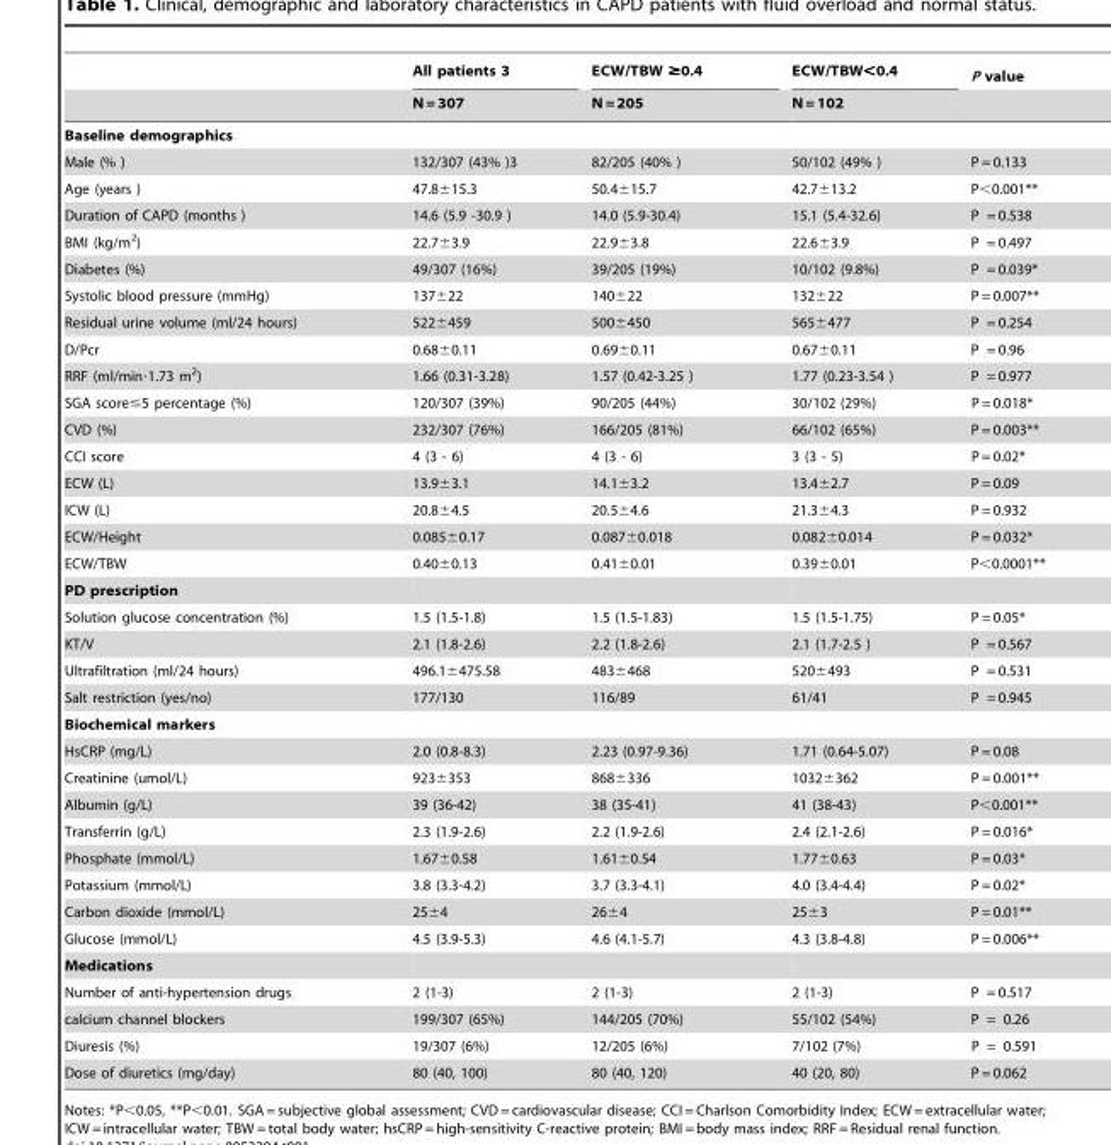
<table><thead><tr><td rowspan="2"></td><td rowspan="2">All patients 3 N = 307</td><td rowspan="2">ECW/TBW ≥0.4 N = 205</td><td rowspan="2">ECW/TBW&lt;0.4 N = 102</td><td rowspan="2">P value</td></tr><tr></tr></thead><tbody><tr><td colspan="5">Baseline demographics</td></tr><tr><td>Male (% )</td><td>132/307 (43% )3</td><td>82/205 (40% )</td><td>50/102 (49% )</td><td>P = 0.133</td></tr><tr><td>Age (years )</td><td>47.8±15.3</td><td>50.4±15.7</td><td>42.7±13.2</td><td>P&lt;0.001**</td></tr><tr><td>Duration of CAPD (months )</td><td>14.6 (5.9 -30.9 )</td><td>14.0 (5.9-30.4)</td><td>15.1 (5.4-32.6)</td><td>P = 0.538</td></tr><tr><td>BMI (kg/m<sup>2</sup>)</td><td>22.7±3.9</td><td>22.9±3.8</td><td>22.6±3.9</td><td>P = 0.497</td></tr><tr><td>Diabetes (%)</td><td>49/307 (16%)</td><td>39/205 (19%)</td><td>10/102 (9.8%)</td><td>P = 0.039*</td></tr><tr><td>Systolic blood pressure (mmHg)</td><td>137±22</td><td>140±22</td><td>132±22</td><td>P = 0.007**</td></tr><tr><td>Residual urine volume (ml/24 hours)</td><td>522±459</td><td>500±450</td><td>565±477</td><td>P = 0.254</td></tr><tr><td>D/Pcr</td><td>0.68±0.11</td><td>0.69±0.11</td><td>0.67±0.11</td><td>P = 0.96</td></tr><tr><td>RRF (ml/min·1.73 m<sup>2</sup>)</td><td>1.66 (0.31-3.28)</td><td>1.57 (0.42-3.25 )</td><td>1.77 (0.23-3.54 )</td><td>P = 0.977</td></tr><tr><td>SGA score≤5 percentage (%)</td><td>120/307 (39%)</td><td>90/205 (44%)</td><td>30/102 (29%)</td><td>P = 0.018*</td></tr><tr><td>CVD (%)</td><td>232/307 (76%)</td><td>166/205 (81%)</td><td>66/102 (65%)</td><td>P = 0.003**</td></tr><tr><td>CCI score</td><td>4 (3 - 6)</td><td>4 (3 - 6)</td><td>3 (3 - 5)</td><td>P = 0.02*</td></tr><tr><td>ECW (L)</td><td>13.9±3.1</td><td>14.1±3.2</td><td>13.4±2.7</td><td>P = 0.09</td></tr><tr><td>ICW (L)</td><td>20.8±4.5</td><td>20.5±4.6</td><td>21.3±4.3</td><td>P = 0.932</td></tr><tr><td>ECW/Height</td><td>0.085±0.17</td><td>0.087±0.018</td><td>0.082±0.014</td><td>P = 0.032*</td></tr><tr><td>ECW/TBW</td><td>0.40±0.13</td><td>0.41±0.01</td><td>0.39±0.01</td><td>P&lt;0.0001**</td></tr><tr><td colspan="5">PD prescription</td></tr><tr><td>Solution glucose concentration (%)</td><td>1.5 (1.5-1.8)</td><td>1.5 (1.5-1.83)</td><td>1.5 (1.5-1.75)</td><td>P = 0.05*</td></tr><tr><td>KT/V</td><td>2.1 (1.8-2.6)</td><td>2.2 (1.8-2.6)</td><td>2.1 (1.7-2.5 )</td><td>P = 0.567</td></tr><tr><td>Ultrafiltration (ml/24 hours)</td><td>496.1±475.58</td><td>483±468</td><td>520±493</td><td>P = 0.531</td></tr><tr><td>Salt restriction (yes/no)</td><td>177/130</td><td>116/89</td><td>61/41</td><td>P = 0.945</td></tr><tr><td colspan="5">Biochemical markers</td></tr><tr><td>HsCRP (mg/L)</td><td>2.0 (0.8-8.3)</td><td>2.23 (0.97-9.36)</td><td>1.71 (0.64-5.07)</td><td>P = 0.08</td></tr><tr><td>Creatinine (umol/L)</td><td>923±353</td><td>868±336</td><td>1032±362</td><td>P = 0.001**</td></tr><tr><td>Albumin (g/L)</td><td>39 (36-42)</td><td>38 (35-41)</td><td>41 (38-43)</td><td>P&lt;0.001**</td></tr><tr><td>Transferrin (g/L)</td><td>2.3 (1.9-2.6)</td><td>2.2 (1.9-2.6)</td><td>2.4 (2.1-2.6)</td><td>P = 0.016*</td></tr><tr><td>Phosphate (mmol/L)</td><td>1.67±0.58</td><td>1.61±0.54</td><td>1.77±0.63</td><td>P = 0.03*</td></tr><tr><td>Potassium (mmol/L)</td><td>3.8 (3.3-4.2)</td><td>3.7 (3.3-4.1)</td><td>4.0 (3.4-4.4)</td><td>P = 0.02*</td></tr><tr><td>Carbon dioxide (mmol/L)</td><td>25±4</td><td>26±4</td><td>25±3</td><td>P = 0.01**</td></tr><tr><td>Glucose (mmol/L)</td><td>4.5 (3.9-5.3)</td><td>4.6 (4.1-5.7)</td><td>4.3 (3.8-4.8)</td><td>P = 0.006**</td></tr><tr><td colspan="5">Medications</td></tr><tr><td>Number of anti-hypertension drugs</td><td>2 (1-3)</td><td>2 (1-3)</td><td>2 (1-3)</td><td>P = 0.517</td></tr><tr><td>calcium channel blockers</td><td>199/307 (65%)</td><td>144/205 (70%)</td><td>55/102 (54%)</td><td>P = 0.26</td></tr><tr><td>Diuresis (%)</td><td>19/307 (6%)</td><td>12/205 (6%)</td><td>7/102 (7%)</td><td>P = 0.591</td></tr><tr><td>Dose of diuretics (mg/day)</td><td>80 (40, 100)</td><td>80 (40, 120)</td><td>40 (20, 80)</td><td>P = 0.062</td></tr></tbody></table>